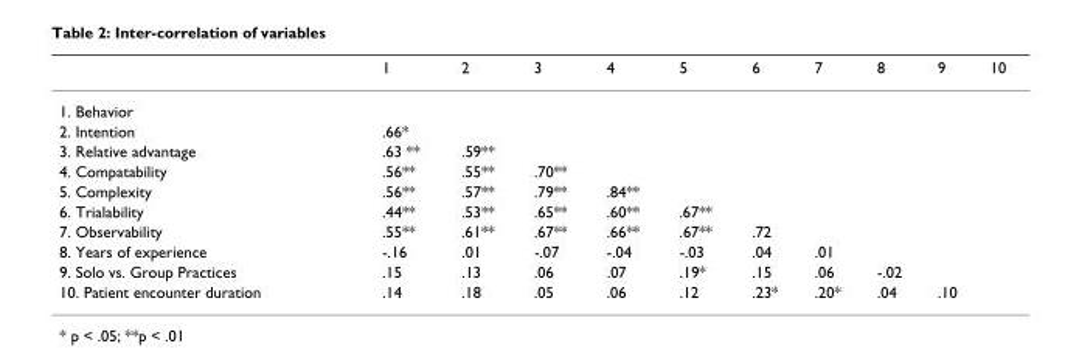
<table><thead><tr><td></td><td>1</td><td>2</td><td>3</td><td>4</td><td>5</td><td>6</td><td>7</td><td>8</td><td>9</td><td>10</td></tr></thead><tbody><tr><td colspan="11">1. Behavior</td></tr><tr><td>2. Intention</td><td>.66*</td><td></td><td></td><td></td><td></td><td></td><td></td><td></td><td></td><td></td></tr><tr><td>3. Relative advantage</td><td>.63 **</td><td>.59**</td><td></td><td></td><td></td><td></td><td></td><td></td><td></td><td></td></tr><tr><td>4. Compatability</td><td>.56**</td><td>.55**</td><td>.70**</td><td></td><td></td><td></td><td></td><td></td><td></td><td></td></tr><tr><td>5. Complexity</td><td>.56**</td><td>.57**</td><td>.79**</td><td>.84**</td><td></td><td></td><td></td><td></td><td></td><td></td></tr><tr><td>6. Trialability</td><td>.44**</td><td>.53**</td><td>.65**</td><td>.60**</td><td>.67**</td><td></td><td></td><td></td><td></td><td></td></tr><tr><td>7. Observability</td><td>.55**</td><td>.61**</td><td>.67**</td><td>.66**</td><td>.67**</td><td>.72</td><td></td><td></td><td></td><td></td></tr><tr><td>8. Years of experience</td><td>-.16</td><td>.01</td><td>-.07</td><td>-.04</td><td>-.03</td><td>.04</td><td>.01</td><td></td><td></td><td></td></tr><tr><td>9. Solo vs. Group Practices</td><td>.15</td><td>.13</td><td>.06</td><td>.07</td><td>.19*</td><td>.15</td><td>.06</td><td>-.02</td><td></td><td></td></tr><tr><td>10. Patient encounter duration</td><td>.14</td><td>.18</td><td>.05</td><td>.06</td><td>.12</td><td>.23*</td><td>.20*</td><td>.04</td><td>.10</td><td></td></tr></tbody></table>